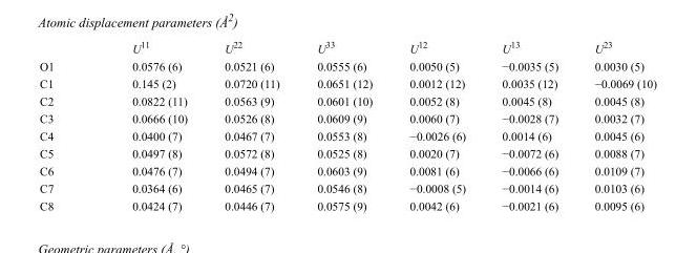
<table><thead><tr><td></td><td>U<sup>11</sup></td><td>U<sup>22</sup></td><td>U<sup>33</sup></td><td>U<sup>12</sup></td><td>U<sup>13</sup></td><td>U<sup>23</sup></td></tr></thead><tbody><tr><td>O1</td><td>0.0576 (6)</td><td>0.0521 (6)</td><td>0.0555 (6)</td><td>0.0050 (5)</td><td>−0.0035 (5)</td><td>0.0030 (5)</td></tr><tr><td>C1</td><td>0.145 (2)</td><td>0.0720 (11)</td><td>0.0651 (12)</td><td>0.0012 (12)</td><td>0.0035 (12)</td><td>−0.0069 (10)</td></tr><tr><td>C2</td><td>0.0822 (11)</td><td>0.0563 (9)</td><td>0.0601 (10)</td><td>0.0052 (8)</td><td>0.0045 (8)</td><td>0.0045 (8)</td></tr><tr><td>C3</td><td>0.0666 (10)</td><td>0.0526 (8)</td><td>0.0609 (9)</td><td>0.0060 (7)</td><td>−0.0028 (7)</td><td>0.0032 (7)</td></tr><tr><td>C4</td><td>0.0400 (7)</td><td>0.0467 (7)</td><td>0.0553 (8)</td><td>−0.0026 (6)</td><td>0.0014 (6)</td><td>0.0045 (6)</td></tr><tr><td>C5</td><td>0.0497 (8)</td><td>0.0572 (8)</td><td>0.0525 (8)</td><td>0.0020 (7)</td><td>−0.0072 (6)</td><td>0.0088 (7)</td></tr><tr><td>C6</td><td>0.0476 (7)</td><td>0.0494 (7)</td><td>0.0603 (9)</td><td>0.0081 (6)</td><td>−0.0066 (6)</td><td>0.0109 (7)</td></tr><tr><td>C7</td><td>0.0364 (6)</td><td>0.0465 (7)</td><td>0.0546 (8)</td><td>−0.0008 (5)</td><td>−0.0014 (6)</td><td>0.0103 (6)</td></tr><tr><td>C8</td><td>0.0424 (7)</td><td>0.0446 (7)</td><td>0.0575 (9)</td><td>0.0042 (6)</td><td>−0.0021 (6)</td><td>0.0095 (6)</td></tr></tbody></table>